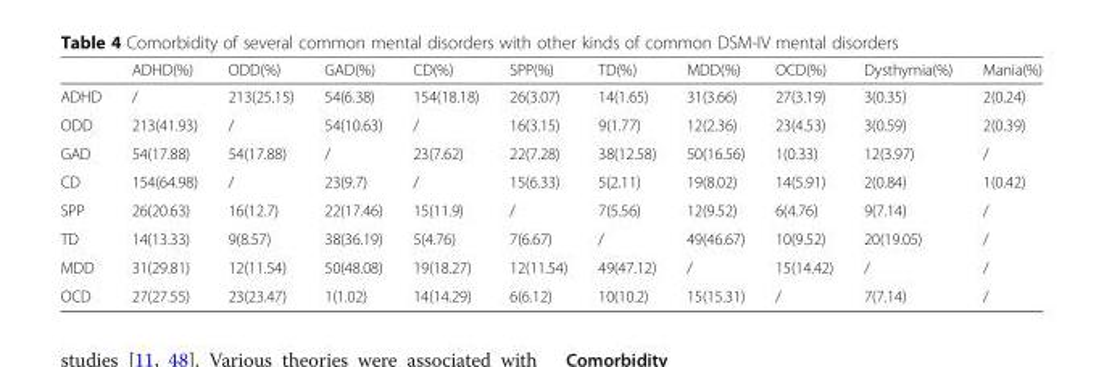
<table><thead><tr><td></td><td>ADHD(%)</td><td>ODD(%)</td><td>GAD(%)</td><td>CD(%)</td><td>SPP(%)</td><td>TD(%)</td><td>MDD(%)</td><td>OCD(%)</td><td>Dysthymia(%)</td><td>Mania(%)</td></tr></thead><tbody><tr><td>ADHD</td><td>/</td><td>213(25.15)</td><td>54(6.38)</td><td>154(18.18)</td><td>26(3.07)</td><td>14(1.65)</td><td>31(3.66)</td><td>27(3.19)</td><td>3(0.35)</td><td>2(0.24)</td></tr><tr><td>ODD</td><td>213(41.93)</td><td>/</td><td>54(10.63)</td><td>/</td><td>16(3.15)</td><td>9(1.77)</td><td>12(2.36)</td><td>23(4.53)</td><td>3(0.59)</td><td>2(0.39)</td></tr><tr><td>GAD</td><td>54(17.88)</td><td>54(17.88)</td><td>/</td><td>23(7.62)</td><td>22(7.28)</td><td>38(12.58)</td><td>50(16.56)</td><td>1(0.33)</td><td>12(3.97)</td><td>/</td></tr><tr><td>CD</td><td>154(64.98)</td><td>/</td><td>23(9.7)</td><td>/</td><td>15(6.33)</td><td>5(2.11)</td><td>19(8.02)</td><td>14(5.91)</td><td>2(0.84)</td><td>1(0.42)</td></tr><tr><td>SPP</td><td>26(20.63)</td><td>16(12.7)</td><td>22(17.46)</td><td>15(11.9)</td><td>/</td><td>7(5.56)</td><td>12(9.52)</td><td>6(4.76)</td><td>9(7.14)</td><td>/</td></tr><tr><td>TD</td><td>14(13.33)</td><td>9(8.57)</td><td>38(36.19)</td><td>5(4.76)</td><td>7(6.67)</td><td>/</td><td>49(46.67)</td><td>10(9.52)</td><td>20(19.05)</td><td>/</td></tr><tr><td>MDD</td><td>31(29.81)</td><td>12(11.54)</td><td>50(48.08)</td><td>19(18.27)</td><td>12(11.54)</td><td>49(47.12)</td><td>/</td><td>15(14.42)</td><td>/</td><td>/</td></tr><tr><td>OCD</td><td>27(27.55)</td><td>23(23.47)</td><td>1(1.02)</td><td>14(14.29)</td><td>6(6.12)</td><td>10(10.2)</td><td>15(15.31)</td><td>/</td><td>7(7.14)</td><td>/</td></tr></tbody></table>